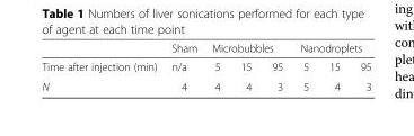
<table><thead><tr><td rowspan="2">Time after injection (min)</td><td rowspan="2">Sham n/a</td><td colspan="3">Microbubbles</td><td colspan="3">Nanodroplets</td></tr><tr><td>5</td><td>15</td><td>95</td><td>5</td><td>15</td><td>95</td></tr></thead><tbody><tr><td>N</td><td>4</td><td>4</td><td>4</td><td>3</td><td>5</td><td>4</td><td>3</td></tr></tbody></table>